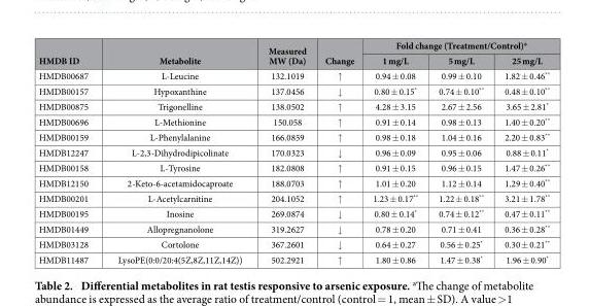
<table><thead><tr><td rowspan="2">HMDB ID</td><td rowspan="2">Metabolite</td><td rowspan="2">Measured MW (Da)</td><td rowspan="2">Change</td><td colspan="3">Fold change (Treatment/Control)<sup>a</sup></td></tr><tr><td>1 mg/L</td><td>5 mg/L</td><td>25 mg/L</td></tr></thead><tbody><tr><td>HMDB00687</td><td>L-Leucine</td><td>132.1019</td><td>↑</td><td>0.94 ± 0.08</td><td>0.99 ± 0.10</td><td>1.82 ± 0.46**</td></tr><tr><td>HMDB00157</td><td>Hypoxanthine</td><td>137.0456</td><td>↓</td><td>0.80 ± 0.15*</td><td>0.74 ± 0.10**</td><td>0.48 ± 0.10**</td></tr><tr><td>HMDB00875</td><td>Trigonelline</td><td>138.0502</td><td>↑</td><td>4.28 ± 3.15</td><td>2.67 ± 2.56</td><td>3.65 ± 2.81*</td></tr><tr><td>HMDB00696</td><td>L-Methionine</td><td>150.058</td><td>↑</td><td>0.91 ± 0.14</td><td>0.98 ± 0.13</td><td>1.40 ± 0.20**</td></tr><tr><td>HMDB00159</td><td>L-Phenylalanine</td><td>166.0859</td><td>↑</td><td>0.98 ± 0.18</td><td>1.04 ± 0.16</td><td>2.20 ± 0.83**</td></tr><tr><td>HMDB12247</td><td>L-2,3-Dihydrodipicolinate</td><td>170.0323</td><td>↓</td><td>0.96 ± 0.09</td><td>0.95 ± 0.06</td><td>0.88 ± 0.11*</td></tr><tr><td>HMDB00158</td><td>L-Tyrosine</td><td>182.0808</td><td>↑</td><td>0.91 ± 0.15</td><td>0.96 ± 0.15</td><td>1.47 ± 0.26**</td></tr><tr><td>HMDB12150</td><td>2-Keto-6-acetamidocaproate</td><td>188.0703</td><td>↑</td><td>1.01 ± 0.20</td><td>1.12 ± 0.14</td><td>1.29 ± 0.40**</td></tr><tr><td>HMDB00201</td><td>L-Acetylcarnitine</td><td>204.1052</td><td>↑</td><td>1.23 ± 0.17**</td><td>1.22 ± 0.18**</td><td>3.21 ± 1.78**</td></tr><tr><td>HMDB00195</td><td>Inosine</td><td>269.0874</td><td>↓</td><td>0.80 ± 0.14*</td><td>0.74 ± 0.12**</td><td>0.47 ± 0.11**</td></tr><tr><td>HMDB01449</td><td>Allopregnanolone</td><td>319.2627</td><td>↓</td><td>0.78 ± 0.20</td><td>0.71 ± 0.41</td><td>0.36 ± 0.28**</td></tr><tr><td>HMDB03128</td><td>Cortolone</td><td>367.2601</td><td>↓</td><td>0.64 ± 0.27</td><td>0.56 ± 0.25*</td><td>0.30 ± 0.21**</td></tr><tr><td>HMDB11487</td><td>LysoPE(0:0/20:4(5Z,8Z,11Z,14Z))</td><td>502.2921</td><td>↑</td><td>1.80 ± 0.86</td><td>1.47 ± 0.38*</td><td>1.96 ± 0.90*</td></tr></tbody></table>